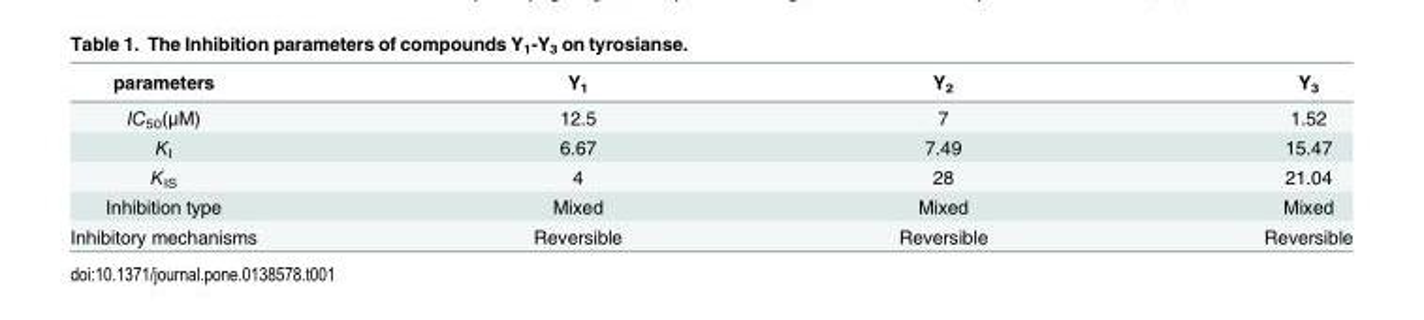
<table><thead><tr><td>parameters</td><td>Y<sub>1</sub></td><td>Y<sub>2</sub></td><td>Y<sub>3</sub></td></tr></thead><tbody><tr><td>IC<sub>50</sub>(μM)</td><td>12.5</td><td>7</td><td>1.52</td></tr><tr><td>K<sub>I</sub></td><td>6.67</td><td>7.49</td><td>15.47</td></tr><tr><td>K<sub>IS</sub></td><td>4</td><td>28</td><td>21.04</td></tr><tr><td>Inhibition type</td><td>Mixed</td><td>Mixed</td><td>Mixed</td></tr><tr><td>Inhibitory mechanisms</td><td>Reversible</td><td>Reversible</td><td>Reversible</td></tr></tbody></table>